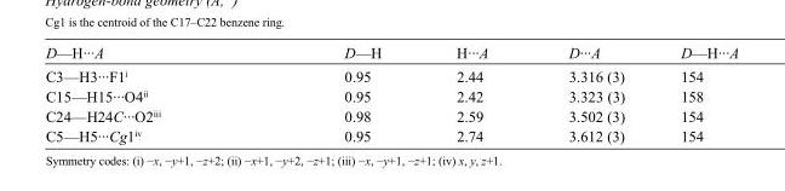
<table><tbody><tr><td>D—H···A</td><td>D—H</td><td>H···A</td><td>D···A</td><td>D—H···A</td></tr><tr><td>C3—H3···F1<sup>i</sup></td><td>0.95</td><td>2.44</td><td>3.316 (3)</td><td>154</td></tr><tr><td>C15—H15···O4<sup>ii</sup></td><td>0.95</td><td>2.42</td><td>3.323 (3)</td><td>158</td></tr><tr><td>C24—H24C···O2<sup>iii</sup></td><td>0.98</td><td>2.59</td><td>3.502 (3)</td><td>154</td></tr><tr><td>C5—H5···Cg1<sup>iv</sup></td><td>0.95</td><td>2.74</td><td>3.612 (3)</td><td>154</td></tr></tbody></table>